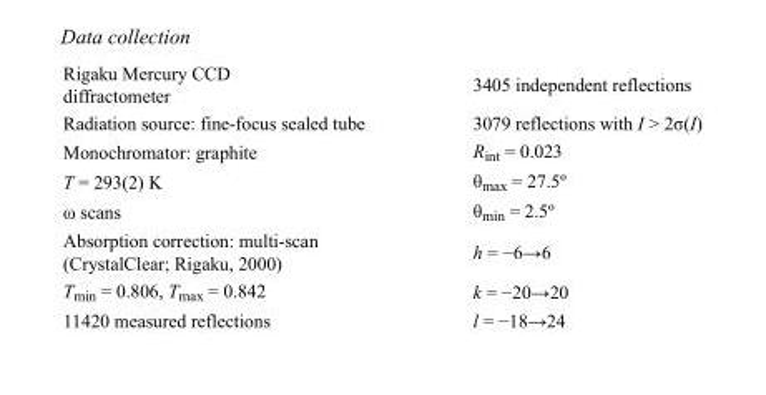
<table><tbody><tr><td>Rigaku Mercury CCD diffractometer</td><td>3405 independent reflections</td></tr><tr><td>Radiation source: fine-focus sealed tube</td><td>3079 reflections with I &gt; 2σ(I)</td></tr><tr><td>Monochromator: graphite</td><td>R<sub>int</sub> = 0.023</td></tr><tr><td>T = 293(2) K</td><td>θ<sub>max</sub> = 27.5º</td></tr><tr><td>ω scans</td><td>θ<sub>min</sub> = 2.5º</td></tr><tr><td>Absorption correction: multi-scan (CrystalClear; Rigaku, 2000)</td><td>h = −6→6</td></tr><tr><td>T<sub>min</sub> = 0.806, T<sub>max</sub> = 0.842</td><td>k = −20→20</td></tr><tr><td>11420 measured reflections</td><td>l = −18→24</td></tr></tbody></table>